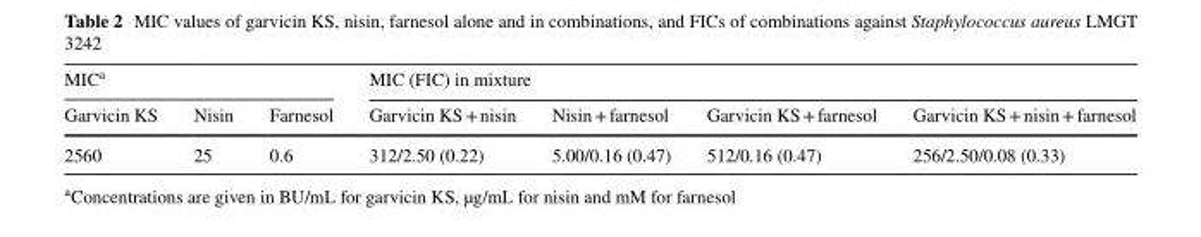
<table><thead><tr><td colspan="3">MIC<sup>a</sup></td><td colspan="4">MIC (FIC) in mixture</td></tr><tr><td>Garvicin KS</td><td>Nisin</td><td>Farnesol</td><td>Garvicin KS + nisin</td><td>Nisin + farnesol</td><td>Garvicin KS + farnesol</td><td>Garvicin KS + nisin + farnesol</td></tr></thead><tbody><tr><td>2560</td><td>25</td><td>0.6</td><td>312/2.50 (0.22)</td><td>5.00/0.16 (0.47)</td><td>512/0.16 (0.47)</td><td>256/2.50/0.08 (0.33)</td></tr></tbody></table>